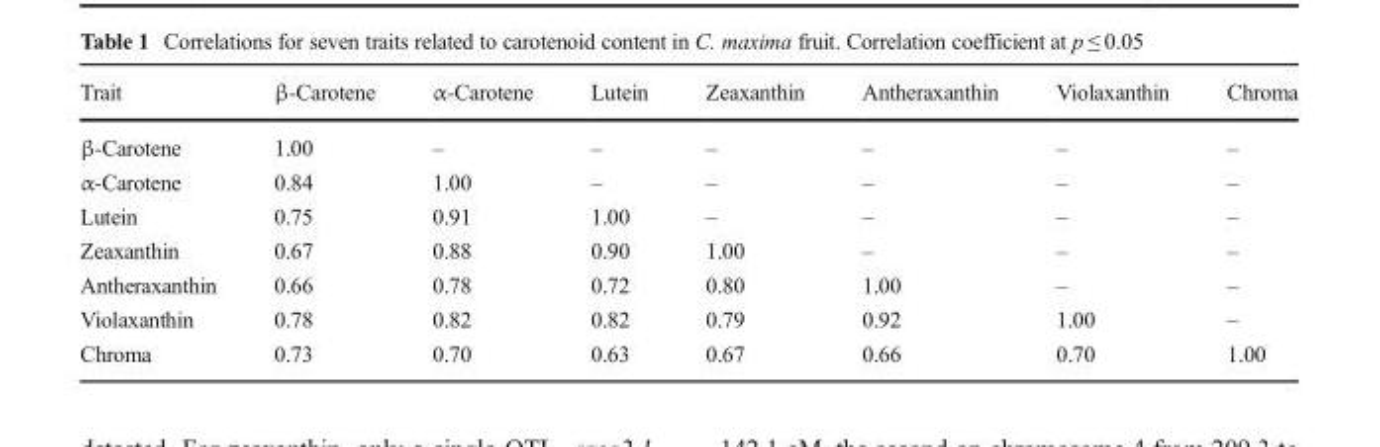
<table><thead><tr><td>Trait</td><td>β-Carotene</td><td>α-Carotene</td><td>Lutein</td><td>Zeaxanthin</td><td>Antheraxanthin</td><td>Violaxanthin</td><td>Chroma</td></tr></thead><tbody><tr><td>β-Carotene</td><td>1.00</td><td>–</td><td>–</td><td>–</td><td>–</td><td>–</td><td>–</td></tr><tr><td>α-Carotene</td><td>0.84</td><td>1.00</td><td>–</td><td>–</td><td>–</td><td>–</td><td>–</td></tr><tr><td>Lutein</td><td>0.75</td><td>0.91</td><td>1.00</td><td>–</td><td>–</td><td>–</td><td>–</td></tr><tr><td>Zeaxanthin</td><td>0.67</td><td>0.88</td><td>0.90</td><td>1.00</td><td>–</td><td>–</td><td>–</td></tr><tr><td>Antheraxanthin</td><td>0.66</td><td>0.78</td><td>0.72</td><td>0.80</td><td>1.00</td><td>–</td><td>–</td></tr><tr><td>Violaxanthin</td><td>0.78</td><td>0.82</td><td>0.82</td><td>0.79</td><td>0.92</td><td>1.00</td><td>–</td></tr><tr><td>Chroma</td><td>0.73</td><td>0.70</td><td>0.63</td><td>0.67</td><td>0.66</td><td>0.70</td><td>1.00</td></tr></tbody></table>